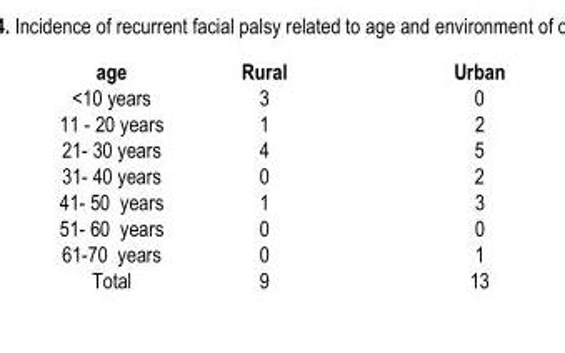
<table><thead><tr><td>age</td><td>Rural</td><td>Urban</td></tr></thead><tbody><tr><td>&lt;10 years</td><td>3</td><td>0</td></tr><tr><td>11 - 20 years</td><td>1</td><td>2</td></tr><tr><td>21- 30 years</td><td>4</td><td>5</td></tr><tr><td>31- 40 years</td><td>0</td><td>2</td></tr><tr><td>41- 50 years</td><td>1</td><td>3</td></tr><tr><td>51- 60 years</td><td>0</td><td>0</td></tr><tr><td>61-70 years</td><td>0</td><td>1</td></tr><tr><td>Total</td><td>9</td><td>13</td></tr></tbody></table>